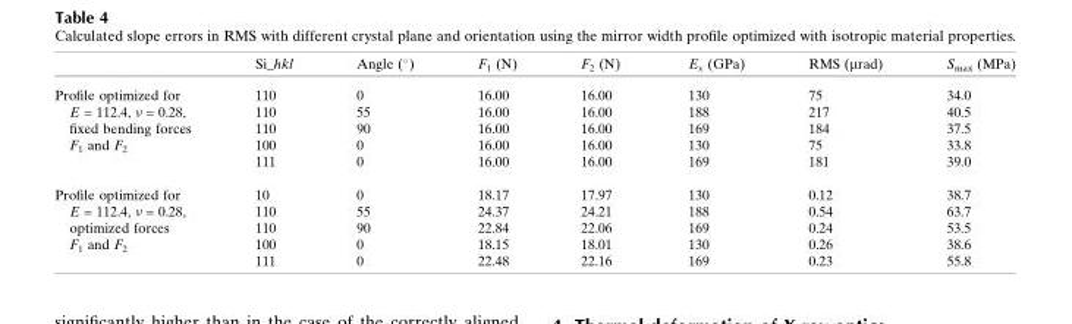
<table><thead><tr><td></td><td>Si_hkl</td><td>Angle (°)</td><td>F<sub>1</sub> (N)</td><td>F<sub>2</sub> (N)</td><td>E<sub>x</sub> (GPa)</td><td>RMS (µrad)</td><td>S<sub>max</sub> (MPa)</td></tr></thead><tbody><tr><td rowspan="5">Profile optimized for E = 112.4, ν = 0.28, fixed bending forces F<sub>1</sub> and F<sub>2</sub></td><td>110</td><td>0</td><td>16.00</td><td>16.00</td><td>130</td><td>75</td><td>34.0</td></tr><tr><td>110</td><td>55</td><td>16.00</td><td>16.00</td><td>188</td><td>217</td><td>40.5</td></tr><tr><td>110</td><td>90</td><td>16.00</td><td>16.00</td><td>169</td><td>184</td><td>37.5</td></tr><tr><td>100</td><td>0</td><td>16.00</td><td>16.00</td><td>130</td><td>75</td><td>33.8</td></tr><tr><td>111</td><td>0</td><td>16.00</td><td>16.00</td><td>169</td><td>181</td><td>39.0</td></tr><tr><td rowspan="5">Profile optimized for E = 112.4, ν = 0.28, optimized forces F<sub>1</sub> and F<sub>2</sub></td><td>10</td><td>0</td><td>18.17</td><td>17.97</td><td>130</td><td>0.12</td><td>38.7</td></tr><tr><td>110</td><td>55</td><td>24.37</td><td>24.21</td><td>188</td><td>0.54</td><td>63.7</td></tr><tr><td>110</td><td>90</td><td>22.84</td><td>22.06</td><td>169</td><td>0.24</td><td>53.5</td></tr><tr><td>100</td><td>0</td><td>18.15</td><td>18.01</td><td>130</td><td>0.26</td><td>38.6</td></tr><tr><td>111</td><td>0</td><td>22.48</td><td>22.16</td><td>169</td><td>0.23</td><td>55.8</td></tr></tbody></table>